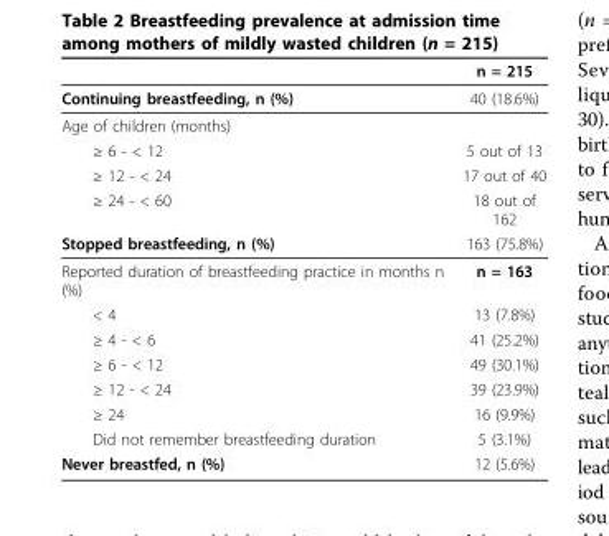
<table><thead><tr><td></td><td>n = 215</td></tr></thead><tbody><tr><td>Continuing breastfeeding, n (%)</td><td>40 (18.6%)</td></tr><tr><td colspan="2">Age of children (months)</td></tr><tr><td>≥ 6 - &lt; 12</td><td>5 out of 13</td></tr><tr><td>≥ 12 - &lt; 24</td><td>17 out of 40</td></tr><tr><td>≥ 24 - &lt; 60</td><td>18 out of 162</td></tr><tr><td>Stopped breastfeeding, n (%)</td><td>163 (75.8%)</td></tr><tr><td>Reported duration of breastfeeding practice in months n (%)</td><td>n = 163</td></tr><tr><td>&lt; 4</td><td>13 (7.8%)</td></tr><tr><td>≥ 4 - &lt; 6</td><td>41 (25.2%)</td></tr><tr><td>≥ 6 - &lt; 12</td><td>49 (30.1%)</td></tr><tr><td>≥ 12 - &lt; 24</td><td>39 (23.9%)</td></tr><tr><td>≥ 24</td><td>16 (9.9%)</td></tr><tr><td>Did not remember breastfeeding duration</td><td>5 (3.1%)</td></tr><tr><td>Never breastfed, n (%)</td><td>12 (5.6%)</td></tr></tbody></table>